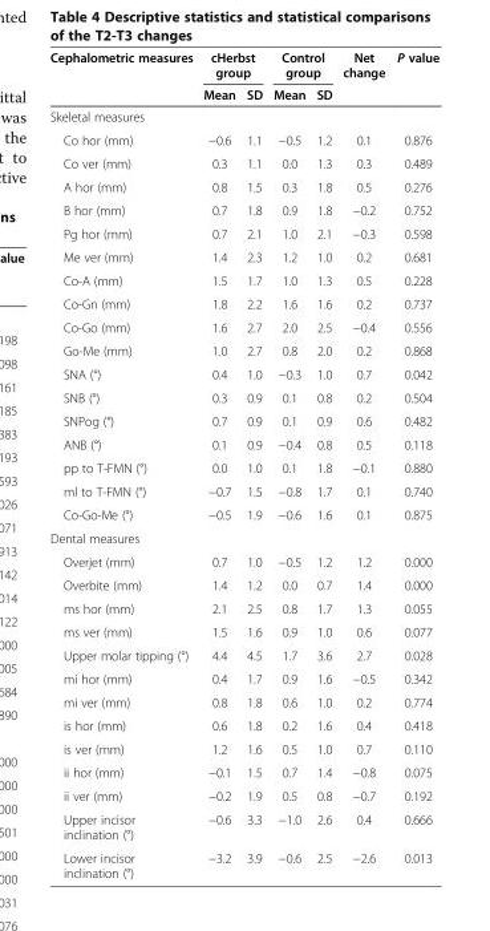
<table><thead><tr><td rowspan="2">Cephalometric measures</td><td colspan="2">cHerbst group</td><td colspan="2">Control group</td><td rowspan="2">Net change</td><td rowspan="2">P value</td></tr><tr><td>Mean</td><td>SD</td><td>Mean</td><td>SD</td></tr></thead><tbody><tr><td colspan="7">Skeletal measures</td></tr><tr><td>Co hor (mm)</td><td>−0.6</td><td>1.1</td><td>−0.5</td><td>1.2</td><td>0.1</td><td>0.876</td></tr><tr><td>Co ver (mm)</td><td>0.3</td><td>1.1</td><td>0.0</td><td>1.3</td><td>0.3</td><td>0.489</td></tr><tr><td>A hor (mm)</td><td>0.8</td><td>1.5</td><td>0.3</td><td>1.8</td><td>0.5</td><td>0.276</td></tr><tr><td>B hor (mm)</td><td>0.7</td><td>1.8</td><td>0.9</td><td>1.8</td><td>−0.2</td><td>0.752</td></tr><tr><td>Pg hor (mm)</td><td>0.7</td><td>2.1</td><td>1.0</td><td>2.1</td><td>−0.3</td><td>0.598</td></tr><tr><td>Me ver (mm)</td><td>1.4</td><td>2.3</td><td>1.2</td><td>1.0</td><td>0.2</td><td>0.681</td></tr><tr><td>Co-A (mm)</td><td>1.5</td><td>1.7</td><td>1.0</td><td>1.3</td><td>0.5</td><td>0.228</td></tr><tr><td>Co-Gn (mm)</td><td>1.8</td><td>2.2</td><td>1.6</td><td>1.6</td><td>0.2</td><td>0.737</td></tr><tr><td>Co-Go (mm)</td><td>1.6</td><td>2.7</td><td>2.0</td><td>2.5</td><td>−0.4</td><td>0.556</td></tr><tr><td>Go-Me (mm)</td><td>1.0</td><td>2.7</td><td>0.8</td><td>2.0</td><td>0.2</td><td>0.868</td></tr><tr><td>SNA (°)</td><td>0.4</td><td>1.0</td><td>−0.3</td><td>1.0</td><td>0.7</td><td>0.042</td></tr><tr><td>SNB (°)</td><td>0.3</td><td>0.9</td><td>0.1</td><td>0.8</td><td>0.2</td><td>0.504</td></tr><tr><td>SNPog (°)</td><td>0.7</td><td>0.9</td><td>0.1</td><td>0.9</td><td>0.6</td><td>0.482</td></tr><tr><td>ANB (°)</td><td>0.1</td><td>0.9</td><td>−0.4</td><td>0.8</td><td>0.5</td><td>0.118</td></tr><tr><td>pp to T-FMN (°)</td><td>0.0</td><td>1.0</td><td>0.1</td><td>1.8</td><td>−0.1</td><td>0.880</td></tr><tr><td>ml to T-FMN (°)</td><td>−0.7</td><td>1.5</td><td>−0.8</td><td>1.7</td><td>0.1</td><td>0.740</td></tr><tr><td>Co-Go-Me (°)</td><td>−0.5</td><td>1.9</td><td>−0.6</td><td>1.6</td><td>0.1</td><td>0.875</td></tr><tr><td colspan="7">Dental measures</td></tr><tr><td>Overjet (mm)</td><td>0.7</td><td>1.0</td><td>−0.5</td><td>1.2</td><td>1.2</td><td>0.000</td></tr><tr><td>Overbite (mm)</td><td>1.4</td><td>1.2</td><td>0.0</td><td>0.7</td><td>1.4</td><td>0.000</td></tr><tr><td>ms hor (mm)</td><td>2.1</td><td>2.5</td><td>0.8</td><td>1.7</td><td>1.3</td><td>0.055</td></tr><tr><td>ms ver (mm)</td><td>1.5</td><td>1.6</td><td>0.9</td><td>1.0</td><td>0.6</td><td>0.077</td></tr><tr><td>Upper molar tipping (°)</td><td>4.4</td><td>4.5</td><td>1.7</td><td>3.6</td><td>2.7</td><td>0.028</td></tr><tr><td>mi hor (mm)</td><td>0.4</td><td>1.7</td><td>0.9</td><td>1.6</td><td>−0.5</td><td>0.342</td></tr><tr><td>mi ver (mm)</td><td>0.8</td><td>1.8</td><td>0.6</td><td>1.0</td><td>0.2</td><td>0.774</td></tr><tr><td>is hor (mm)</td><td>0.6</td><td>1.8</td><td>0.2</td><td>1.6</td><td>0.4</td><td>0.418</td></tr><tr><td>is ver (mm)</td><td>1.2</td><td>1.6</td><td>0.5</td><td>1.0</td><td>0.7</td><td>0.110</td></tr><tr><td>ii hor (mm)</td><td>−0.1</td><td>1.5</td><td>0.7</td><td>1.4</td><td>−0.8</td><td>0.075</td></tr><tr><td>ii ver (mm)</td><td>−0.2</td><td>1.9</td><td>0.5</td><td>0.8</td><td>−0.7</td><td>0.192</td></tr><tr><td>Upper incisor inclination (°)</td><td>−0.6</td><td>3.3</td><td>−1.0</td><td>2.6</td><td>0.4</td><td>0.666</td></tr><tr><td>Lower incisor inclination (°)</td><td>−3.2</td><td>3.9</td><td>−0.6</td><td>2.5</td><td>−2.6</td><td>0.013</td></tr></tbody></table>